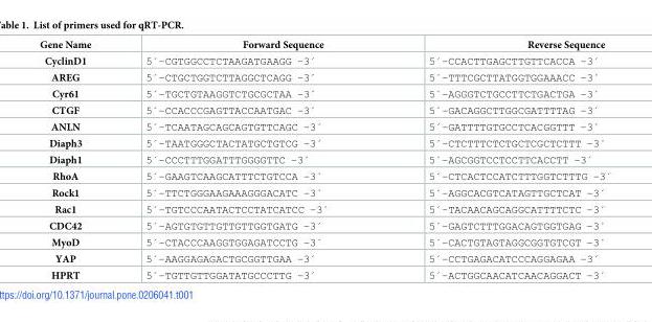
<table><thead><tr><td>Gene Name</td><td>Forward Sequence</td><td>Reverse Sequence</td></tr></thead><tbody><tr><td>CyclinD1</td><td>5´–CGTGGCCTCTAAGATGAAGG –3´</td><td>5´–CCACTTGAGCTTGTTCACCA –3´</td></tr><tr><td>AREG</td><td>5´–CTGCTGGTCTTAGGCTCAGG –3´</td><td>5´–TTTCGCTTATGGTGGAAACC –3´</td></tr><tr><td>Cyr61</td><td>5´–TGCTGTAAGGTCTGCGCTAA –3´</td><td>5´–AGGGTCTGCCTTCTGACTGA –3´</td></tr><tr><td>CTGF</td><td>5´–CCACCCGAGTTACCAATGAC –3´</td><td>5´–GACAGGCTTGGCGATTTTAG –3´</td></tr><tr><td>ANLN</td><td>5´–TCAATAGCAGCAGTGTTCAGC –3´</td><td>5´–GATTTTGTGCCTCACGGTTT –3´</td></tr><tr><td>Diaph3</td><td>5´–TAATGGGCTACTATGCTGTCG –3´</td><td>5´–CTCTTTCTCTGCTCGCTCTTT –3´</td></tr><tr><td>Diaph1</td><td>5´–CCCTTTGGATTTGGGGTTC –3´</td><td>5´–AGCGGTCCTCCTTCACCTT –3´</td></tr><tr><td>RhoA</td><td>5´–GAAGTCAAGCATTTCTGTCCA –3´</td><td>5´–CTCACTCCATCTTTGGTCTTTG –3´</td></tr><tr><td>Rock1</td><td>5´–TTCTGGGAAGAAAGGGACATC –3´</td><td>5´–AGGCACGTCATAGTTGCTCAT –3´</td></tr><tr><td>Rac1</td><td>5´–TGTCCCAATACTCCTATCATCC –3´</td><td>5´–TACAACAGCAGGCATTTTCTC –3´</td></tr><tr><td>CDC42</td><td>5´–AGTGTGTTGTTGTTGGTGATG –3´</td><td>5´–GAGTCTTTGGACAGTGGTGAG –3´</td></tr><tr><td>MyoD</td><td>5´–CTACCCAAGGTGGAGATCCTG –3´</td><td>5´–CACTGTAGTAGGCGGTGTCGT –3´</td></tr><tr><td>YAP</td><td>5´–AAGGAGAGACTGCGGTTGAA –3´</td><td>5´–CCTGAGACATCCCAGGAGAA –3´</td></tr><tr><td>HPRT</td><td>5´–TGTTGTTGGATATGCCCTTG –3´</td><td>5´–ACTGGCAACATCAACAGGACT –3´</td></tr></tbody></table>